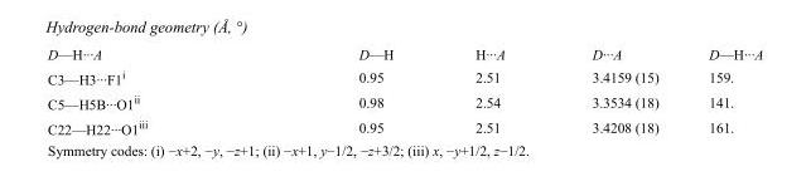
<table><tbody><tr><td>D—H···A</td><td>D—H</td><td>H···A</td><td>D···A</td><td>D—H···A</td></tr><tr><td>C3—H3···F1<sup>i</sup></td><td>0.95</td><td>2.51</td><td>3.4159 (15)</td><td>159.</td></tr><tr><td>C5—H5B···O1<sup>ii</sup></td><td>0.98</td><td>2.54</td><td>3.3534 (18)</td><td>141.</td></tr><tr><td>C22—H22···O1<sup>iii</sup></td><td>0.95</td><td>2.51</td><td>3.4208 (18)</td><td>161.</td></tr></tbody></table>